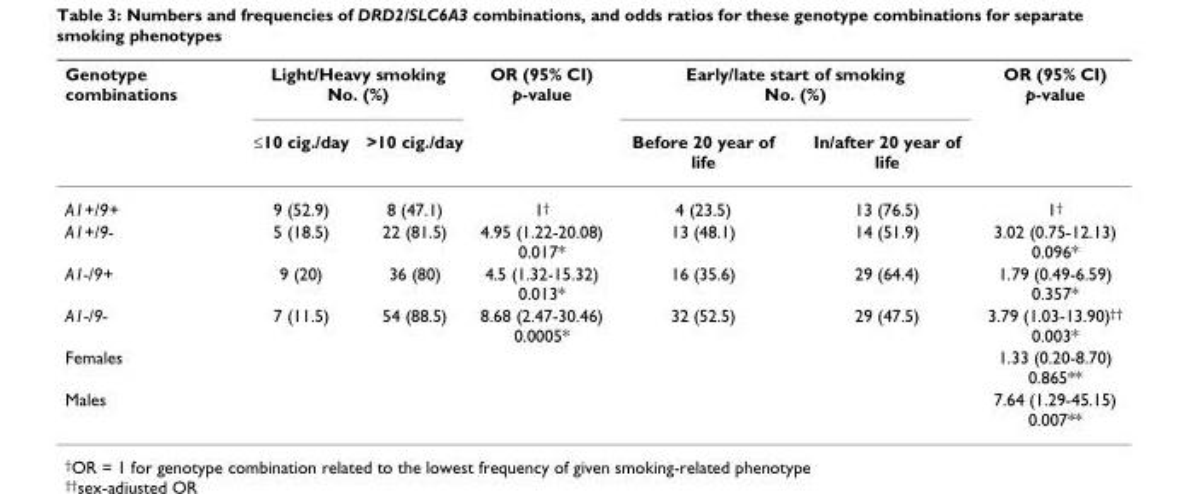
<table><thead><tr><td rowspan="2">Genotype combinations</td><td colspan="2">Light/Heavy smoking No. (%)</td><td rowspan="2">OR (95% CI) p-value</td><td colspan="2">Early/late start of smoking No. (%)</td><td rowspan="2">OR (95% CI) p-value</td></tr><tr><td>≤10 cig./day</td><td>&gt;10 cig./day</td><td>Before 20 year of life</td><td>In/after 20 year of life</td></tr></thead><tbody><tr><td>A1+/9+</td><td>9 (52.9)</td><td>8 (47.1)</td><td>1<sup>†</sup></td><td>4 (23.5)</td><td>13 (76.5)</td><td>1<sup>†</sup></td></tr><tr><td>A1+/9-</td><td>5 (18.5)</td><td>22 (81.5)</td><td>4.95 (1.22-20.08) 0.017*</td><td>13 (48.1)</td><td>14 (51.9)</td><td>3.02 (0.75-12.13) 0.096*</td></tr><tr><td>A1-/9+</td><td>9 (20)</td><td>36 (80)</td><td>4.5 (1.32-15.32) 0.013*</td><td>16 (35.6)</td><td>29 (64.4)</td><td>1.79 (0.49-6.59) 0.357*</td></tr><tr><td>A1-/9-</td><td>7 (11.5)</td><td>54 (88.5)</td><td>8.68 (2.47-30.46) 0.0005*</td><td>32 (52.5)</td><td>29 (47.5)</td><td>3.79 (1.03-13.90)<sup>††</sup> 0.003*</td></tr><tr><td>Females</td><td></td><td></td><td></td><td></td><td></td><td>1.33 (0.20-8.70) 0.865**</td></tr><tr><td>Males</td><td></td><td></td><td></td><td></td><td></td><td>7.64 (1.29-45.15) 0.007**</td></tr></tbody></table>